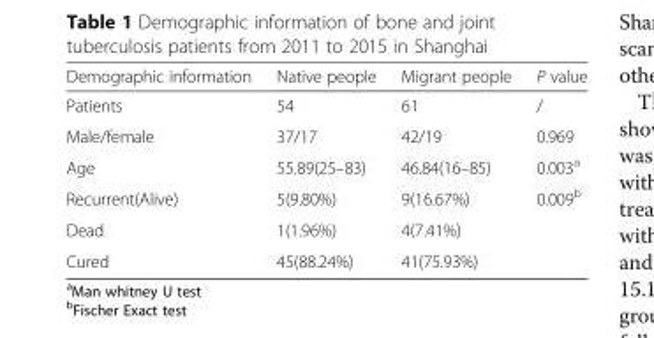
<table><thead><tr><td>Demographic information</td><td>Native people</td><td>Migrant people</td><td>P value</td></tr></thead><tbody><tr><td>Patients</td><td>54</td><td>61</td><td>/</td></tr><tr><td>Male/female</td><td>37/17</td><td>42/19</td><td>0.969</td></tr><tr><td>Age</td><td>55.89(25–83)</td><td>46.84(16–85)</td><td>0.003<sup>a</sup></td></tr><tr><td>Recurrent(Alive)</td><td>5(9.80%)</td><td>9(16.67%)</td><td rowspan="3">0.009<sup>b</sup></td></tr><tr><td>Dead</td><td>1(1.96%)</td><td>4(7.41%)</td></tr><tr><td>Cured</td><td>45(88.24%)</td><td>41(75.93%)</td></tr></tbody></table>